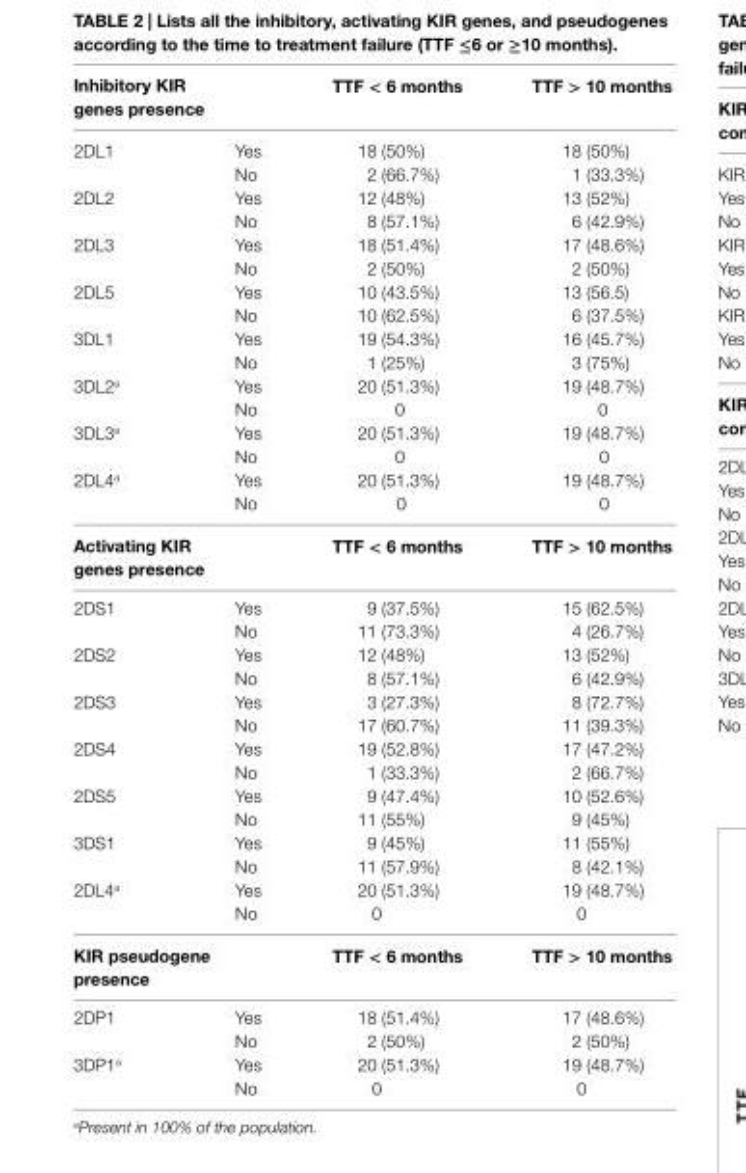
<table><thead><tr><td>inhibitory Kir genes presence</td><td></td><td>TTF &lt; 6 months</td><td>TTF &gt; 10 months</td></tr></thead><tbody><tr><td rowspan="2">2DL1</td><td>Yes</td><td>18 (50%)</td><td>18 (50%)</td></tr><tr><td>No</td><td>2 (66.7%)</td><td>1 (33.3%)</td></tr><tr><td rowspan="2">2DL2</td><td>Yes</td><td>12 (48%)</td><td>13 (52%)</td></tr><tr><td>No</td><td>8 (57.1%)</td><td>6 (42.9%)</td></tr><tr><td rowspan="2">2DL3</td><td>Yes</td><td>18 (51.4%)</td><td>17 (48.6%)</td></tr><tr><td>No</td><td>2 (50%)</td><td>2 (50%)</td></tr><tr><td rowspan="2">2DL5</td><td>Yes</td><td>10 (43.5%)</td><td>13 (56.5)</td></tr><tr><td>No</td><td>10 (62.5%)</td><td>6 (37.5%)</td></tr><tr><td rowspan="2">3DL1</td><td>Yes</td><td>19 (54.3%)</td><td>16 (45.7%)</td></tr><tr><td>No</td><td>1 (25%)</td><td>3 (75%)</td></tr><tr><td rowspan="2">3DL2<sup>a</sup></td><td>Yes</td><td>20 (51.3%)</td><td>19 (48.7%)</td></tr><tr><td>No</td><td>0</td><td>0</td></tr><tr><td rowspan="2">3DL3<sup>a</sup></td><td>Yes</td><td>20 (51.3%)</td><td>19 (48.7%)</td></tr><tr><td>No</td><td>0</td><td>0</td></tr><tr><td rowspan="2">2DL4<sup>a</sup></td><td>Yes</td><td>20 (51.3%)</td><td>19 (48.7%)</td></tr><tr><td>No</td><td>0</td><td>0</td></tr><tr><td>activating Kir genes presence</td><td></td><td>TTF &lt; 6 months</td><td>TTF &gt; 10 months</td></tr><tr><td rowspan="2">2DS1</td><td>Yes</td><td>9 (37.5%)</td><td>15 (62.5%)</td></tr><tr><td>No</td><td>11 (73.3%)</td><td>4 (26.7%)</td></tr><tr><td rowspan="2">2DS2</td><td>Yes</td><td>12 (48%)</td><td>13 (52%)</td></tr><tr><td>No</td><td>8 (57.1%)</td><td>6 (42.9%)</td></tr><tr><td rowspan="2">2DS3</td><td>Yes</td><td>3 (27.3%)</td><td>8 (72.7%)</td></tr><tr><td>No</td><td>17 (60.7%)</td><td>11 (39.3%)</td></tr><tr><td rowspan="2">2DS4</td><td>Yes</td><td>19 (52.8%)</td><td>17 (47.2%)</td></tr><tr><td>No</td><td>1 (33.3%)</td><td>2 (66.7%)</td></tr><tr><td rowspan="2">2DS5</td><td>Yes</td><td>9 (47.4%)</td><td>10 (52.6%)</td></tr><tr><td>No</td><td>11 (55%)</td><td>9 (45%)</td></tr><tr><td rowspan="2">3DS1</td><td>Yes</td><td>9 (45%)</td><td>11 (55%)</td></tr><tr><td>No</td><td>11 (57.9%)</td><td>8 (42.1%)</td></tr><tr><td rowspan="2">2DL4<sup>a</sup></td><td>Yes</td><td>20 (51.3%)</td><td>19 (48.7%)</td></tr><tr><td>No</td><td>0</td><td>0</td></tr><tr><td>Kir pseudogene presence</td><td></td><td>TTF &lt; 6 months</td><td>TTF &gt; 10 months</td></tr><tr><td rowspan="2">2DP1</td><td>Yes</td><td>18 (51.4%)</td><td>17 (48.6%)</td></tr><tr><td>No</td><td>2 (50%)</td><td>2 (50%)</td></tr><tr><td rowspan="2">3DP1<sup>a</sup></td><td>Yes</td><td>20 (51.3%)</td><td>19 (48.7%)</td></tr><tr><td>No</td><td>0</td><td>0</td></tr></tbody></table>